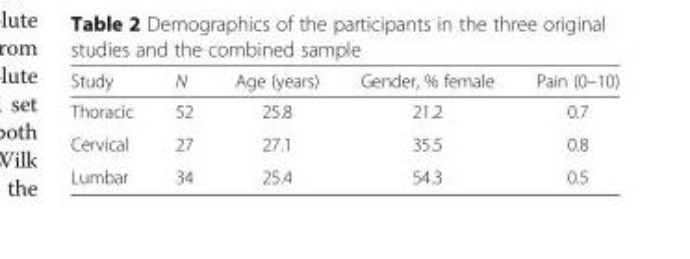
<table><thead><tr><td>Study</td><td>N</td><td>Age (years)</td><td>Gender, % female</td><td>Pain (0–10)</td></tr></thead><tbody><tr><td>Thoracic</td><td>52</td><td>25.8</td><td>21.2</td><td>0.7</td></tr><tr><td>Cervical</td><td>27</td><td>27.1</td><td>35.5</td><td>0.8</td></tr><tr><td>Lumbar</td><td>34</td><td>25.4</td><td>54.3</td><td>0.5</td></tr></tbody></table>